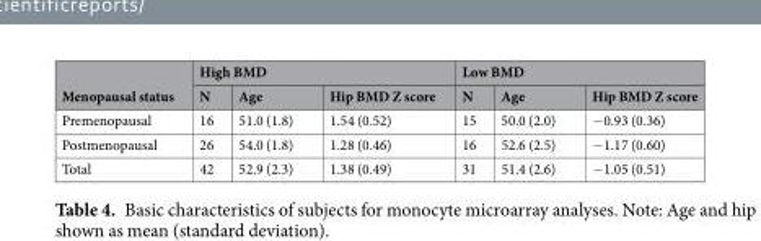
<table><thead><tr><td rowspan="2">Menopausal status</td><td colspan="3">High BMD</td><td colspan="3">Low BMD</td></tr><tr><td>N</td><td>Age</td><td>Hip BMD Z score</td><td>N</td><td>Age</td><td>Hip BMD Z score</td></tr></thead><tbody><tr><td>Premenopausal</td><td>16</td><td>51.0 (1.8)</td><td>1.54 (0.52)</td><td>15</td><td>50.0 (2.0)</td><td>−0.93 (0.36)</td></tr><tr><td>Postmenopausal</td><td>26</td><td>54.0 (1.8)</td><td>1.28 (0.46)</td><td>16</td><td>52.6 (2.5)</td><td>−1.17 (0.60)</td></tr><tr><td>Total</td><td>42</td><td>52.9 (2.3)</td><td>1.38 (0.49)</td><td>31</td><td>51.4 (2.6)</td><td>−1.05 (0.51)</td></tr></tbody></table>